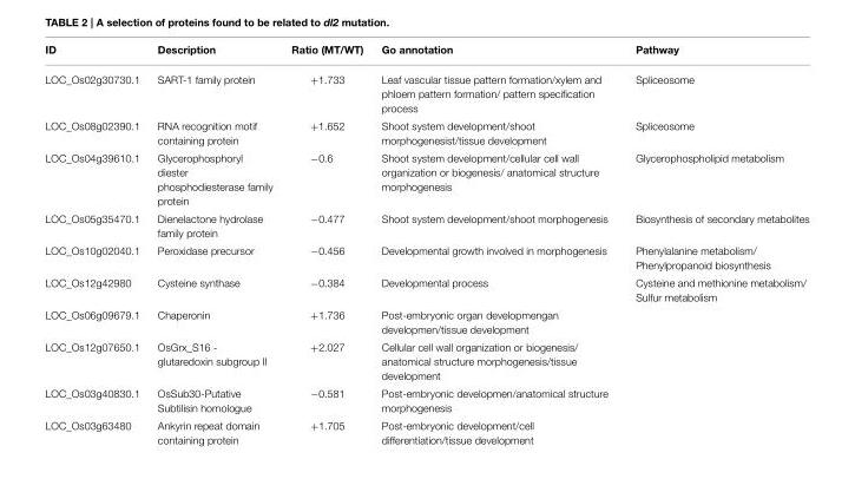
<table><thead><tr><td>ID</td><td>Description</td><td>Ratio (MT/WT)</td><td>Go annotation</td><td>Pathway</td></tr></thead><tbody><tr><td>LOC_Os02g30730.1</td><td>SART-1 family protein</td><td>+1.733</td><td>Leaf vascular tissue pattern formation/xylem and phloem pattern formation/ pattern specification process</td><td>Spliceosome</td></tr><tr><td>LOC_Os08g02390.1</td><td>RNA recognition motif containing protein</td><td>+1.652</td><td>Shoot system development/shoot morphogenesist/tissue development</td><td>Spliceosome</td></tr><tr><td>LOC_Os04g39610.1</td><td>Glycerophosphoryl diester phosphodiesterase family protein</td><td>−0.6</td><td>Shoot system development/cellular cell wall organization or biogenesis/ anatomical structure morphogenesis</td><td>Glycerophospholipid metabolism</td></tr><tr><td>LOC_Os05g35470.1</td><td>Dienelactone hydrolase family protein</td><td>−0.477</td><td>Shoot system development/shoot morphogenesis</td><td>Biosynthesis of secondary metabolites</td></tr><tr><td>LOC_Os10g02040.1</td><td>Peroxidase precursor</td><td>−0.456</td><td>Developmental growth involved in morphogenesis</td><td>Phenylalanine metabolism/ Phenylpropanoid biosynthesis</td></tr><tr><td>LOC_Os12g42980</td><td>Cysteine synthase</td><td>−0.384</td><td>Developmental process</td><td>Cysteine and methionine metabolism/ Sulfur metabolism</td></tr><tr><td>LOC_Os06g09679.1</td><td>Chaperonin</td><td>+1.736</td><td>Post-embryonic organ developmengan developmen/tissue development</td><td></td></tr><tr><td>LOC_Os12g07650.1</td><td>OsGrx_S16 - glutaredoxin subgroup II</td><td>+2.027</td><td>Cellular cell wall organization or biogenesis/ anatomical structure morphogenesis/tissue development</td><td></td></tr><tr><td>LOC_Os03g40830.1</td><td>OsSub30-Putative Subtilisin homologue</td><td>−0.581</td><td>Post-embryonic developmen/anatomical structure morphogenesis</td><td></td></tr><tr><td>LOC_Os03g63480</td><td>Ankyrin repeat domain containing protein</td><td>+1.705</td><td>Post-embryonic development/cell differentiation/tissue development</td><td></td></tr></tbody></table>